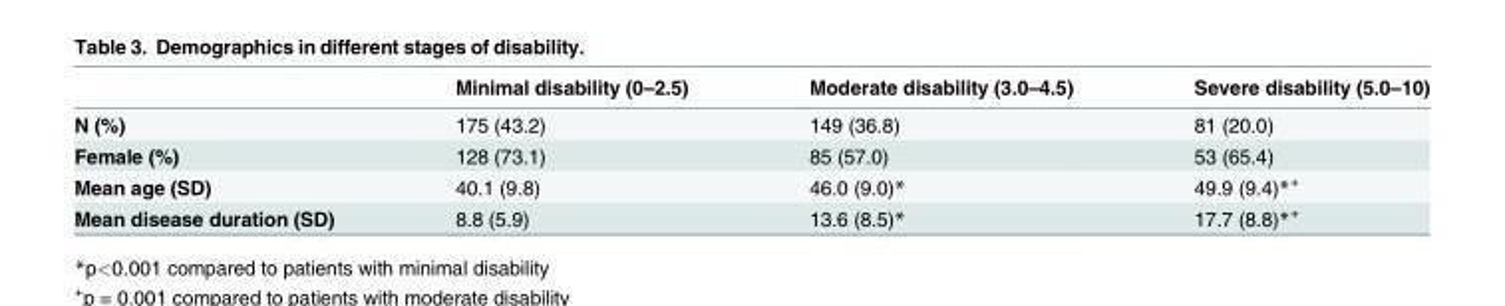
<table><thead><tr><td></td><td>Minimal disability (0–2.5)</td><td>Moderate disability (3.0–4.5)</td><td>Severe disability (5.0–10)</td></tr></thead><tbody><tr><td>N (%)</td><td>175 (43.2)</td><td>149 (36.8)</td><td>81 (20.0)</td></tr><tr><td>Female (%)</td><td>128 (73.1)</td><td>85 (57.0)</td><td>53 (65.4)</td></tr><tr><td>Mean age (SD)</td><td>40.1 (9.8)</td><td>46.0 (9.0)*</td><td>49.9 (9.4)*<sup>+</sup></td></tr><tr><td>Mean disease duration (SD)</td><td>8.8 (5.9)</td><td>13.6 (8.5)*</td><td>17.7 (8.8)*<sup>+</sup></td></tr></tbody></table>